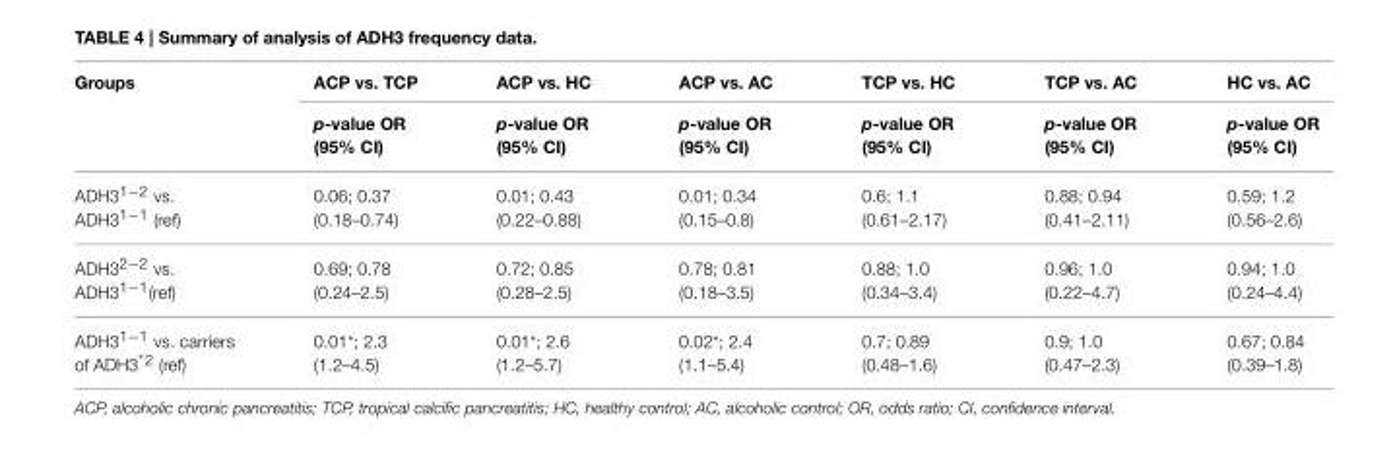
<table><thead><tr><td rowspan="2">Groups</td><td rowspan="2">ACP vs. TCP p-value OR (95% CI)</td><td rowspan="2">ACP vs. HC p-value OR (95% CI)</td><td rowspan="2">ACP vs. AC p-value OR (95% CI)</td><td rowspan="2">TCP vs. HC p-value OR (95% CI)</td><td rowspan="2">TCP vs. AC p-value OR (95% CI)</td><td rowspan="2">HC vs. AC p-value OR (95% CI)</td></tr><tr></tr></thead><tbody><tr><td>ADH3<sup>1−2</sup> vs. ADH3<sup>1−1</sup> (ref)</td><td>0.06; 0.37 (0.18–0.74)</td><td>0.01; 0.43 (0.22–0.88)</td><td>0.01; 0.34 (0.15–0.8)</td><td>0.6; 1.1 (0.61–2.17)</td><td>0.88; 0.94 (0.41–2.11)</td><td>0.59; 1.2 (0.56–2.6)</td></tr><tr><td>ADH3<sup>2−2</sup> vs. ADH3<sup>1−1</sup>(ref)</td><td>0.69; 0.78 (0.24–2.5)</td><td>0.72; 0.85 (0.28–2.5)</td><td>0.78; 0.81 (0.18–3.5)</td><td>0.88; 1.0 (0.34–3.4)</td><td>0.96; 1.0 (0.22–4.7)</td><td>0.94; 1.0 (0.24–4.4)</td></tr><tr><td>ADH3<sup>1−1</sup> vs. carriers of ADH3<sup>*2</sup> (ref)</td><td>0.01*; 2.3 (1.2–4.5)</td><td>0.01*; 2.6 (1.2–5.7)</td><td>0.02*; 2.4 (1.1–5.4)</td><td>0.7; 0.89 (0.48–1.6)</td><td>0.9; 1.0 (0.47–2.3)</td><td>0.67; 0.84 (0.39–1.8)</td></tr></tbody></table>